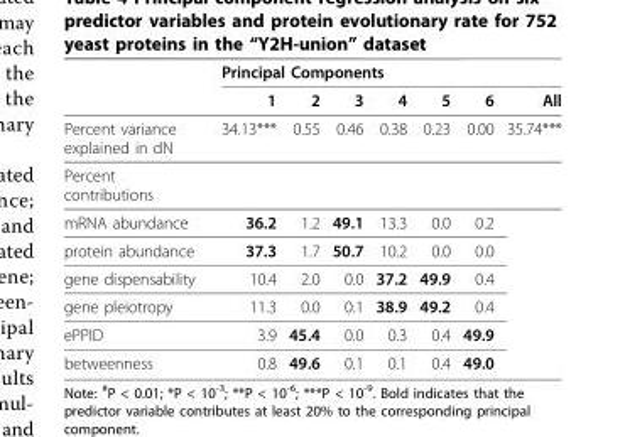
<table><thead><tr><td rowspan="2"></td><td colspan="7">Principal Components</td></tr><tr><td>1</td><td>2</td><td>3</td><td>4</td><td>5</td><td>6</td><td>All</td></tr></thead><tbody><tr><td>Percent variance explained in dN</td><td>34.13***</td><td>0.55</td><td>0.46</td><td>0.38</td><td>0.23</td><td>0.00</td><td>35.74***</td></tr><tr><td colspan="8">Percent contributions</td></tr><tr><td>mRNA abundance</td><td>36.2</td><td>1.2</td><td>49.1</td><td>13.3</td><td>0.0</td><td>0.2</td><td></td></tr><tr><td>protein abundance</td><td>37.3</td><td>1.7</td><td>50.7</td><td>10.2</td><td>0.0</td><td>0.0</td><td></td></tr><tr><td>gene dispensability</td><td>10.4</td><td>2.0</td><td>0.0</td><td>37.2</td><td>49.9</td><td>0.4</td><td></td></tr><tr><td>gene pleiotropy</td><td>11.3</td><td>0.0</td><td>0.1</td><td>38.9</td><td>49.2</td><td>0.4</td><td></td></tr><tr><td>ePPID</td><td>3.9</td><td>45.4</td><td>0.0</td><td>0.3</td><td>0.4</td><td>49.9</td><td></td></tr><tr><td>betweenness</td><td>0.8</td><td>49.6</td><td>0.1</td><td>0.1</td><td>0.4</td><td>49.0</td><td></td></tr></tbody></table>